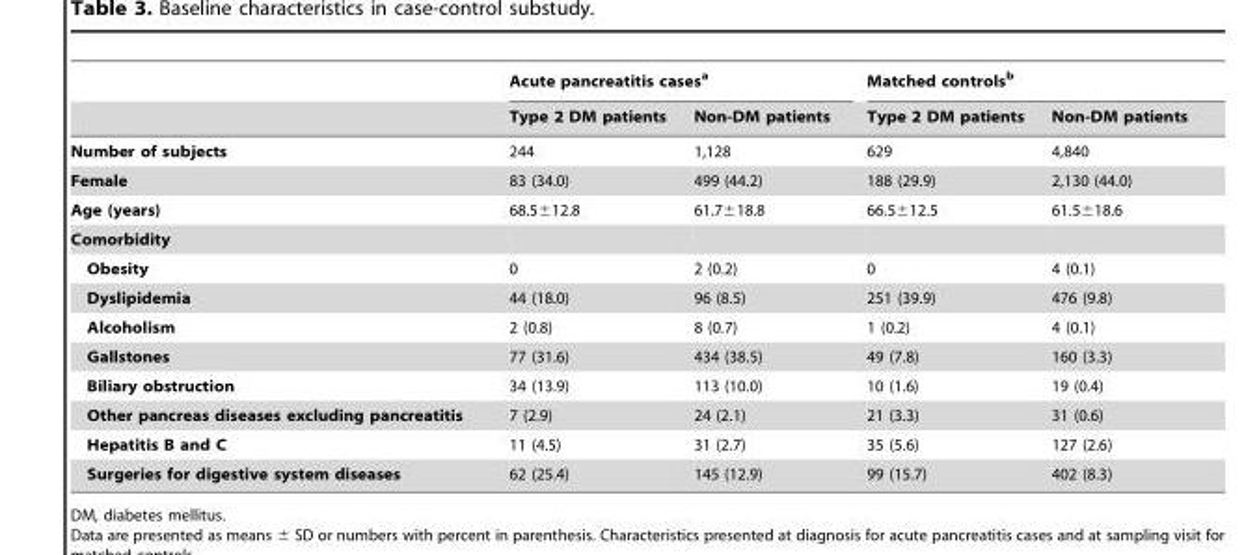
<table><thead><tr><td rowspan="2"></td><td colspan="2">Acute pancreatitis cases<sup>a</sup></td><td colspan="2">Matched controls<sup>b</sup></td></tr><tr><td>Type 2 DM patients</td><td>Non-DM patients</td><td>Type 2 DM patients</td><td>Non-DM patients</td></tr></thead><tbody><tr><td>Number of subjects</td><td>244</td><td>1,128</td><td>629</td><td>4,840</td></tr><tr><td>Female</td><td>83 (34.0)</td><td>499 (44.2)</td><td>188 (29.9)</td><td>2,130 (44.0)</td></tr><tr><td>Age (years)</td><td>68.5±12.8</td><td>61.7±18.8</td><td>66.5±12.5</td><td>61.5±18.6</td></tr><tr><td colspan="5">Comorbidity</td></tr><tr><td>Obesity</td><td>0</td><td>2 (0.2)</td><td>0</td><td>4 (0.1)</td></tr><tr><td>Dyslipidemia</td><td>44 (18.0)</td><td>96 (8.5)</td><td>251 (39.9)</td><td>476 (9.8)</td></tr><tr><td>Alcoholism</td><td>2 (0.8)</td><td>8 (0.7)</td><td>1 (0.2)</td><td>4 (0.1)</td></tr><tr><td>Gallstones</td><td>77 (31.6)</td><td>434 (38.5)</td><td>49 (7.8)</td><td>160 (3.3)</td></tr><tr><td>Biliary obstruction</td><td>34 (13.9)</td><td>113 (10.0)</td><td>10 (1.6)</td><td>19 (0.4)</td></tr><tr><td>Other pancreas diseases excluding pancreatitis</td><td>7 (2.9)</td><td>24 (2.1)</td><td>21 (3.3)</td><td>31 (0.6)</td></tr><tr><td>Hepatitis B and C</td><td>11 (4.5)</td><td>31 (2.7)</td><td>35 (5.6)</td><td>127 (2.6)</td></tr><tr><td>Surgeries for digestive system diseases</td><td>62 (25.4)</td><td>145 (12.9)</td><td>99 (15.7)</td><td>402 (8.3)</td></tr></tbody></table>